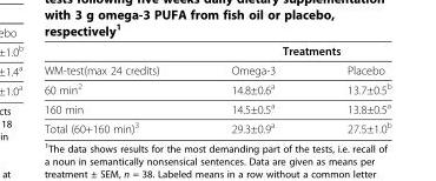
<table><thead><tr><td colspan="3">Treatments</td></tr><tr><td>WM-test(max 24 credits)</td><td>Omega-3</td><td>Placebo</td></tr></thead><tbody><tr><td>60 min<sup>2</sup></td><td>14.8±0.6<sup>a</sup></td><td>13.7±0.5<sup>b</sup></td></tr><tr><td>160 min</td><td>14.5±0.5<sup>a</sup></td><td>13.8±0.5<sup>a</sup></td></tr><tr><td>Total (60+160 min)<sup>3</sup></td><td>29.3±0.9<sup>a</sup></td><td>27.5±1.0<sup>b</sup></td></tr></tbody></table>